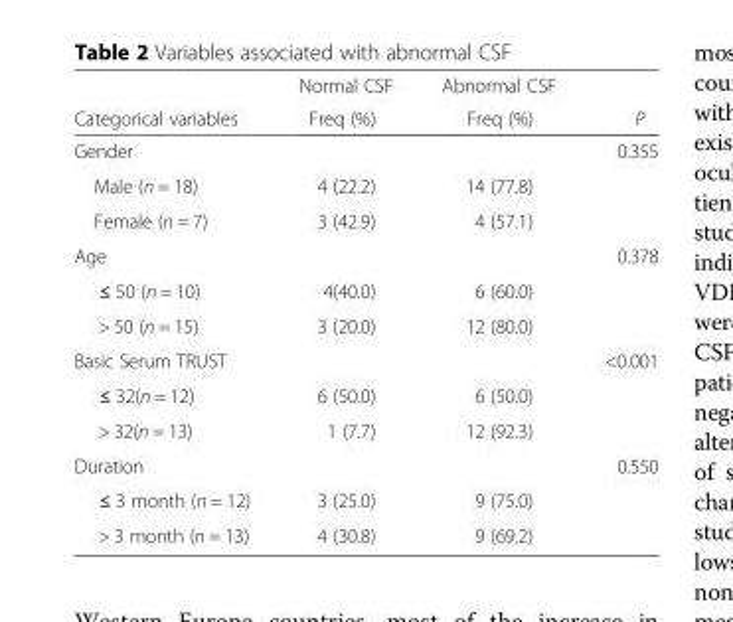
<table><thead><tr><td rowspan="2">Categorical variables</td><td rowspan="2">Normal CSF Freq (%)</td><td rowspan="2">Abnormal CSF Freq (%)</td><td rowspan="2">P</td></tr><tr></tr></thead><tbody><tr><td>Gender</td><td></td><td></td><td>0.355</td></tr><tr><td>Male (n = 18)</td><td>4 (22.2)</td><td>14 (77.8)</td><td></td></tr><tr><td>Female (n = 7)</td><td>3 (42.9)</td><td>4 (57.1)</td><td></td></tr><tr><td>Age</td><td></td><td></td><td>0.378</td></tr><tr><td>≤ 50 (n = 10)</td><td>4(40.0)</td><td>6 (60.0)</td><td></td></tr><tr><td>&gt; 50 (n = 15)</td><td>3 (20.0)</td><td>12 (80.0)</td><td></td></tr><tr><td>Basic Serum TRUST</td><td></td><td></td><td>&lt;0.001</td></tr><tr><td>≤ 32(n = 12)</td><td>6 (50.0)</td><td>6 (50.0)</td><td></td></tr><tr><td>&gt; 32(n = 13)</td><td>1 (7.7)</td><td>12 (92.3)</td><td></td></tr><tr><td>Duration</td><td></td><td></td><td>0.550</td></tr><tr><td>≤ 3 month (n = 12)</td><td>3 (25.0)</td><td>9 (75.0)</td><td></td></tr><tr><td>&gt; 3 month (n = 13)</td><td>4 (30.8)</td><td>9 (69.2)</td><td></td></tr></tbody></table>